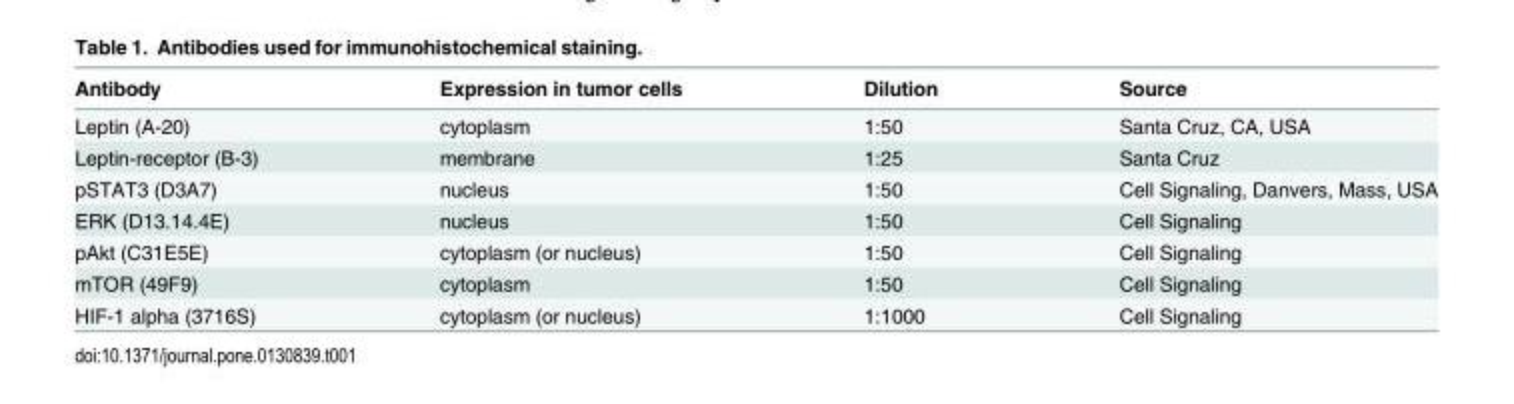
<table><thead><tr><td>Antibody</td><td>Expression in tumor cells</td><td>Dilution</td><td>Source</td></tr></thead><tbody><tr><td>Leptin (A-20)</td><td>cytoplasm</td><td>1:50</td><td>Santa Cruz, CA, USA</td></tr><tr><td>Leptin-receptor (B-3)</td><td>membrane</td><td>1:25</td><td>Santa Cruz</td></tr><tr><td>pSTAT3 (D3A7)</td><td>nucleus</td><td>1:50</td><td>Cell Signaling, Danvers, Mass, USA</td></tr><tr><td>ERK (D13.14.4E)</td><td>nucleus</td><td>1:50</td><td>Cell Signaling</td></tr><tr><td>pAkt (C31E5E)</td><td>cytoplasm (or nucleus)</td><td>1:50</td><td>Cell Signaling</td></tr><tr><td>mTOR (49F9)</td><td>cytoplasm</td><td>1:50</td><td>Cell Signaling</td></tr><tr><td>HIF-1 alpha (3716S)</td><td>cytoplasm (or nucleus)</td><td>1:1000</td><td>Cell Signaling</td></tr></tbody></table>